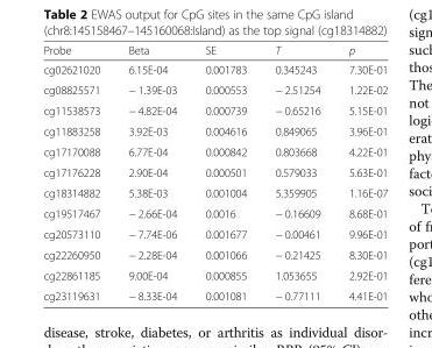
<table><thead><tr><td>Probe</td><td>Beta</td><td>SE</td><td>T</td><td>p</td></tr></thead><tbody><tr><td>cg02621020</td><td>6.15E-04</td><td>0.001783</td><td>0.345243</td><td>7.30E-01</td></tr><tr><td>cg08825571</td><td>− 1.39E-03</td><td>0.000553</td><td>− 2.51254</td><td>1.22E-02</td></tr><tr><td>cg11538573</td><td>− 4.82E-04</td><td>0.000739</td><td>− 0.65216</td><td>5.15E-01</td></tr><tr><td>cg11883258</td><td>3.92E-03</td><td>0.004616</td><td>0.849065</td><td>3.96E-01</td></tr><tr><td>cg17170088</td><td>6.77E-04</td><td>0.000842</td><td>0.803668</td><td>4.22E-01</td></tr><tr><td>cg17176228</td><td>2.90E-04</td><td>0.000501</td><td>0.579033</td><td>5.63E-01</td></tr><tr><td>cg18314882</td><td>5.38E-03</td><td>0.001004</td><td>5.359905</td><td>1.16E-07</td></tr><tr><td>cg19517467</td><td>− 2.66E-04</td><td>0.0016</td><td>− 0.16609</td><td>8.68E-01</td></tr><tr><td>cg20573110</td><td>− 7.74E-06</td><td>0.001677</td><td>− 0.00461</td><td>9.96E-01</td></tr><tr><td>cg22260950</td><td>− 2.28E-04</td><td>0.001066</td><td>− 0.21425</td><td>8.30E-01</td></tr><tr><td>cg22861185</td><td>9.00E-04</td><td>0.000855</td><td>1.053655</td><td>2.92E-01</td></tr><tr><td>cg23119631</td><td>− 8.33E-04</td><td>0.001081</td><td>− 0.77111</td><td>4.41E-01</td></tr></tbody></table>